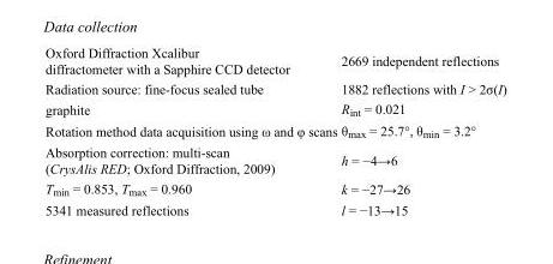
<table><tbody><tr><td>Oxford Diffraction Xcalibur diffractometer with a Sapphire CCD detector</td><td>2669 independent reflections</td></tr><tr><td>Radiation source: fine-focus sealed tube</td><td>1882 reflections with I &gt; 2σ(I)</td></tr><tr><td>graphite</td><td>R<sub>int</sub> = 0.021</td></tr><tr><td>Rotation method data acquisition using ω and φ scans</td><td>θ<sub>max</sub> = 25.7°, θ<sub>min</sub> = 3.2°</td></tr><tr><td>Absorption correction: multi-scan (CrysAlis RED; Oxford Diffraction, 2009)</td><td>h = −4→6</td></tr><tr><td>T<sub>min</sub> = 0.853, T<sub>max</sub> = 0.960</td><td>k = −27→26</td></tr><tr><td>5341 measured reflections</td><td>l = −13→15</td></tr></tbody></table>